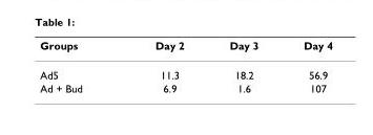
<table><thead><tr><td>Groups</td><td>Day 2</td><td>Day 3</td><td>Day 4</td></tr></thead><tbody><tr><td>Ad5</td><td>11.3</td><td>18.2</td><td>56.9</td></tr><tr><td>Ad + Bud</td><td>6.9</td><td>1.6</td><td>107</td></tr></tbody></table>